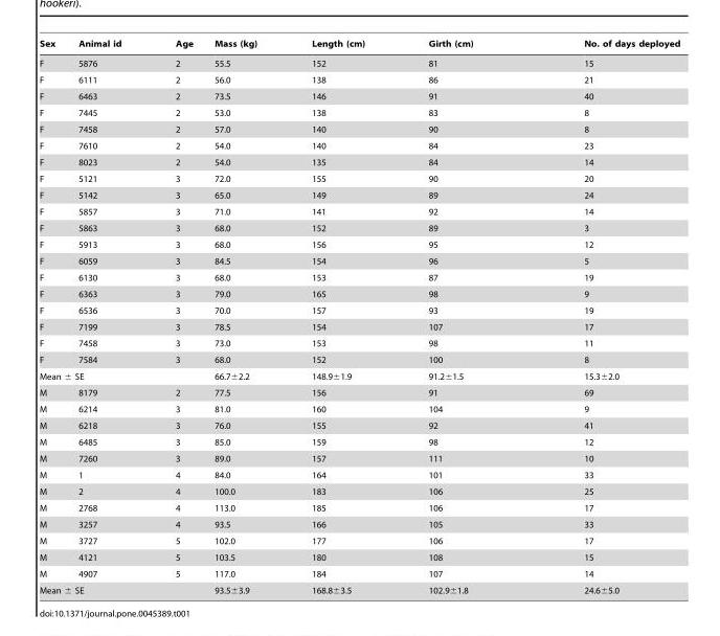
<table><thead><tr><td>Sex</td><td>Animal id</td><td>Age</td><td>Mass (kg)</td><td>Length (cm)</td><td>Girth (cm)</td><td>No. of days deployed</td></tr></thead><tbody><tr><td>F</td><td>5876</td><td>2</td><td>55.5</td><td>152</td><td>81</td><td>15</td></tr><tr><td>F</td><td>6111</td><td>2</td><td>56.0</td><td>138</td><td>86</td><td>21</td></tr><tr><td>F</td><td>6463</td><td>2</td><td>73.5</td><td>146</td><td>91</td><td>40</td></tr><tr><td>F</td><td>7445</td><td>2</td><td>53.0</td><td>138</td><td>83</td><td>8</td></tr><tr><td>F</td><td>7458</td><td>2</td><td>57.0</td><td>140</td><td>90</td><td>8</td></tr><tr><td>F</td><td>7610</td><td>2</td><td>54.0</td><td>140</td><td>84</td><td>23</td></tr><tr><td>F</td><td>8023</td><td>2</td><td>54.0</td><td>135</td><td>84</td><td>14</td></tr><tr><td>F</td><td>5121</td><td>3</td><td>72.0</td><td>155</td><td>90</td><td>20</td></tr><tr><td>F</td><td>5142</td><td>3</td><td>65.0</td><td>149</td><td>89</td><td>24</td></tr><tr><td>F</td><td>5857</td><td>3</td><td>71.0</td><td>141</td><td>92</td><td>14</td></tr><tr><td>F</td><td>5863</td><td>3</td><td>68.0</td><td>152</td><td>89</td><td>3</td></tr><tr><td>F</td><td>5913</td><td>3</td><td>68.0</td><td>156</td><td>95</td><td>12</td></tr><tr><td>F</td><td>6059</td><td>3</td><td>84.5</td><td>154</td><td>96</td><td>5</td></tr><tr><td>F</td><td>6130</td><td>3</td><td>68.0</td><td>153</td><td>87</td><td>19</td></tr><tr><td>F</td><td>6363</td><td>3</td><td>79.0</td><td>165</td><td>98</td><td>9</td></tr><tr><td>F</td><td>6536</td><td>3</td><td>70.0</td><td>157</td><td>93</td><td>19</td></tr><tr><td>F</td><td>7199</td><td>3</td><td>78.5</td><td>154</td><td>107</td><td>17</td></tr><tr><td>F</td><td>7458</td><td>3</td><td>73.0</td><td>153</td><td>98</td><td>11</td></tr><tr><td>F</td><td>7584</td><td>3</td><td>68.0</td><td>152</td><td>100</td><td>8</td></tr><tr><td colspan="2">Mean ± SE</td><td></td><td>66.7±2.2</td><td>148.9±1.9</td><td>91.2±1.5</td><td>15.3±2.0</td></tr><tr><td>M</td><td>8179</td><td>2</td><td>77.5</td><td>156</td><td>91</td><td>69</td></tr><tr><td>M</td><td>6214</td><td>3</td><td>81.0</td><td>160</td><td>104</td><td>9</td></tr><tr><td>M</td><td>6218</td><td>3</td><td>76.0</td><td>155</td><td>92</td><td>41</td></tr><tr><td>M</td><td>6485</td><td>3</td><td>85.0</td><td>159</td><td>98</td><td>12</td></tr><tr><td>M</td><td>7260</td><td>3</td><td>89.0</td><td>157</td><td>111</td><td>10</td></tr><tr><td>M</td><td>1</td><td>4</td><td>84.0</td><td>164</td><td>101</td><td>33</td></tr><tr><td>M</td><td>2</td><td>4</td><td>100.0</td><td>183</td><td>106</td><td>25</td></tr><tr><td>M</td><td>2768</td><td>4</td><td>113.0</td><td>185</td><td>106</td><td>17</td></tr><tr><td>M</td><td>3257</td><td>4</td><td>93.5</td><td>166</td><td>105</td><td>33</td></tr><tr><td>M</td><td>3727</td><td>5</td><td>102.0</td><td>177</td><td>106</td><td>17</td></tr><tr><td>M</td><td>4121</td><td>5</td><td>103.5</td><td>180</td><td>108</td><td>15</td></tr><tr><td>M</td><td>4907</td><td>5</td><td>117.0</td><td>184</td><td>107</td><td>14</td></tr><tr><td colspan="2">Mean ± SE</td><td></td><td>93.5±3.9</td><td>168.8±3.5</td><td>102.9±1.8</td><td>24.6±5.0</td></tr></tbody></table>